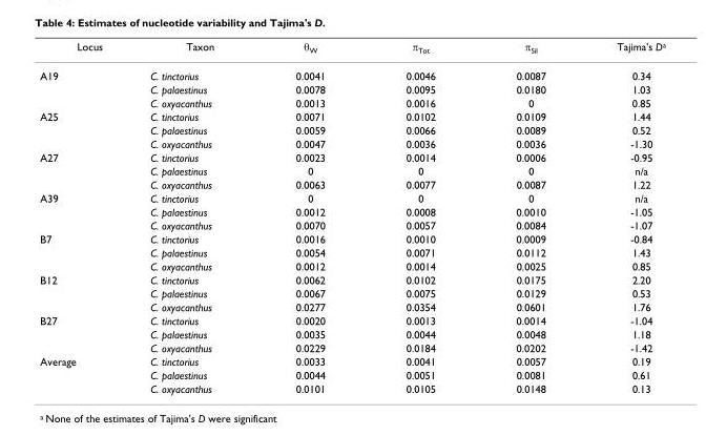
<table><thead><tr><td>Locus</td><td>Taxon</td><td>θ<sub>W</sub></td><td>π<sub>Tot</sub></td><td>π<sub>Sil</sub></td><td>Tajima&#x27;s D<sup>a</sup></td></tr></thead><tbody><tr><td rowspan="3">A19</td><td>C. tinctorius</td><td>0.0041</td><td>0.0046</td><td>0.0087</td><td>0.34</td></tr><tr><td>C. palaestinus</td><td>0.0078</td><td>0.0095</td><td>0.0180</td><td>1.03</td></tr><tr><td>C. oxyacanthus</td><td>0.0013</td><td>0.0016</td><td>0</td><td>0.85</td></tr><tr><td rowspan="3">A25</td><td>C. tinctorius</td><td>0.0071</td><td>0.0102</td><td>0.0109</td><td>1.44</td></tr><tr><td>C. palaestinus</td><td>0.0059</td><td>0.0066</td><td>0.0089</td><td>0.52</td></tr><tr><td>C. oxyacanthus</td><td>0.0047</td><td>0.0036</td><td>0.0036</td><td>-1.30</td></tr><tr><td rowspan="3">A27</td><td>C. tinctorius</td><td>0.0023</td><td>0.0014</td><td>0.0006</td><td>-0.95</td></tr><tr><td>C. palaestinus</td><td>0</td><td>0</td><td>0</td><td>n/a</td></tr><tr><td>C. oxyacanthus</td><td>0.0063</td><td>0.0077</td><td>0.0087</td><td>1.22</td></tr><tr><td rowspan="3">A39</td><td>C. tinctorius</td><td>0</td><td>0</td><td>0</td><td>n/a</td></tr><tr><td>C. palaestinus</td><td>0.0012</td><td>0.0008</td><td>0.0010</td><td>-1.05</td></tr><tr><td>C. oxyacanthus</td><td>0.0070</td><td>0.0057</td><td>0.0084</td><td>-1.07</td></tr><tr><td rowspan="3">B7</td><td>C. tinctorius</td><td>0.0016</td><td>0.0010</td><td>0.0009</td><td>-0.84</td></tr><tr><td>C. palaestinus</td><td>0.0054</td><td>0.0071</td><td>0.0112</td><td>1.43</td></tr><tr><td>C. oxyacanthus</td><td>0.0012</td><td>0.0014</td><td>0.0025</td><td>0.85</td></tr><tr><td rowspan="3">B12</td><td>C. tinctorius</td><td>0.0062</td><td>0.0102</td><td>0.0175</td><td>2.20</td></tr><tr><td>C. palaestinus</td><td>0.0067</td><td>0.0075</td><td>0.0129</td><td>0.53</td></tr><tr><td>C. oxyacanthus</td><td>0.0277</td><td>0.0354</td><td>0.0601</td><td>1.76</td></tr><tr><td rowspan="3">B27</td><td>C. tinctorius</td><td>0.0020</td><td>0.0013</td><td>0.0014</td><td>-1.04</td></tr><tr><td>C. palaestinus</td><td>0.0035</td><td>0.0044</td><td>0.0048</td><td>1.18</td></tr><tr><td>C. oxyacanthus</td><td>0.0229</td><td>0.0184</td><td>0.0202</td><td>-1.42</td></tr><tr><td rowspan="3">Average</td><td>C. tinctorius</td><td>0.0033</td><td>0.0041</td><td>0.0057</td><td>0.19</td></tr><tr><td>C. palaestinus</td><td>0.0044</td><td>0.0051</td><td>0.0081</td><td>0.61</td></tr><tr><td>C. oxyacanthus</td><td>0.0101</td><td>0.0105</td><td>0.0148</td><td>0.13</td></tr></tbody></table>